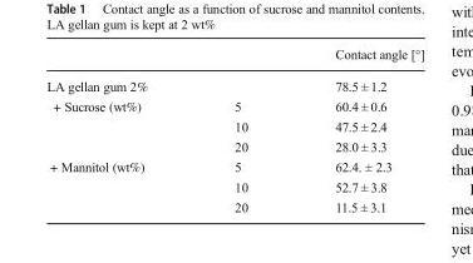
<table><thead><tr><td></td><td></td><td>Contact angle [°]</td></tr></thead><tbody><tr><td>LA gellan gum 2%</td><td></td><td>78.5 ± 1.2</td></tr><tr><td rowspan="3">+ Sucrose (wt%)</td><td>5</td><td>60.4 ± 0.6</td></tr><tr><td>10</td><td>47.5 ± 2.4</td></tr><tr><td>20</td><td>28.0 ± 3.3</td></tr><tr><td rowspan="3">+ Mannitol (wt%)</td><td>5</td><td>62.4. ± 2.3</td></tr><tr><td>10</td><td>52.7 ± 3.8</td></tr><tr><td>20</td><td>11.5 ± 3.1</td></tr></tbody></table>